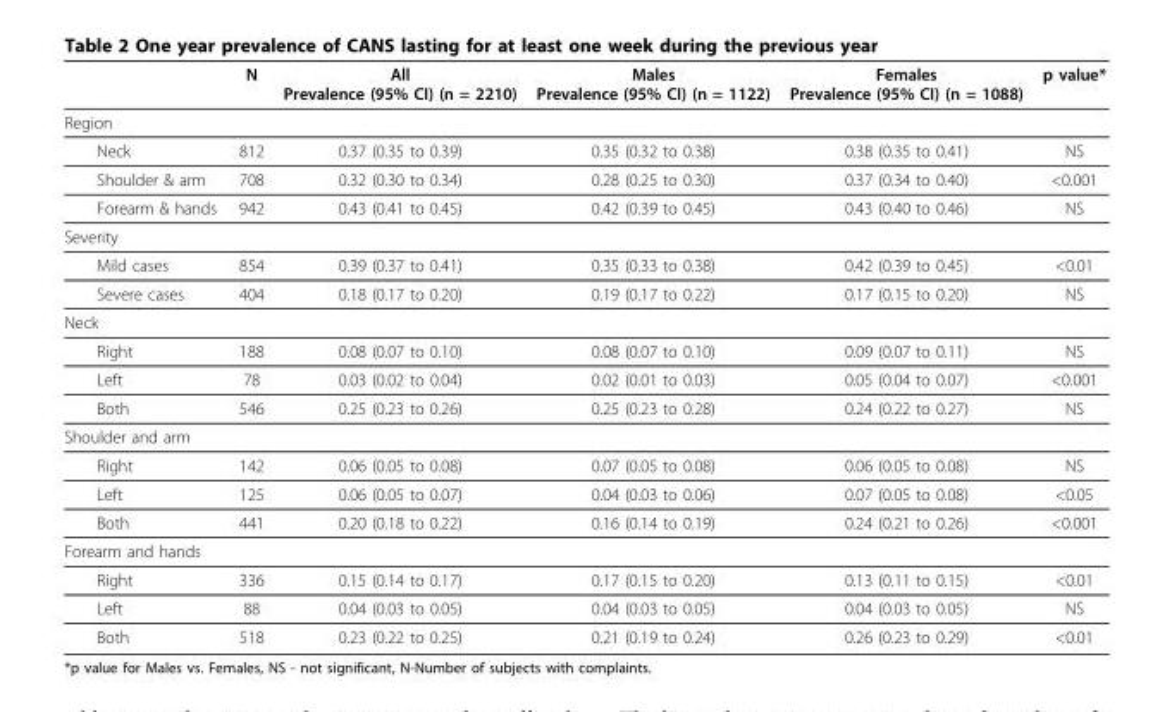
<table><thead><tr><td></td><td>N</td><td>All Prevalence (95% CI) (n = 2210)</td><td>Males Prevalence (95% CI) (n = 1122)</td><td>Females Prevalence (95% CI) (n = 1088)</td><td>p value*</td></tr></thead><tbody><tr><td colspan="6">Region</td></tr><tr><td>Neck</td><td>812</td><td>0.37 (0.35 to 0.39)</td><td>0.35 (0.32 to 0.38)</td><td>0.38 (0.35 to 0.41)</td><td>NS</td></tr><tr><td>Shoulder &amp; arm</td><td>708</td><td>0.32 (0.30 to 0.34)</td><td>0.28 (0.25 to 0.30)</td><td>0.37 (0.34 to 0.40)</td><td>&lt;0.001</td></tr><tr><td>Forearm &amp; hands</td><td>942</td><td>0.43 (0.41 to 0.45)</td><td>0.42 (0.39 to 0.45)</td><td>0.43 (0.40 to 0.46)</td><td>NS</td></tr><tr><td colspan="6">Severity</td></tr><tr><td>Mild cases</td><td>854</td><td>0.39 (0.37 to 0.41)</td><td>0.35 (0.33 to 0.38)</td><td>0.42 (0.39 to 0.45)</td><td>&lt;0.01</td></tr><tr><td>Severe cases</td><td>404</td><td>0.18 (0.17 to 0.20)</td><td>0.19 (0.17 to 0.22)</td><td>0.17 (0.15 to 0.20)</td><td>NS</td></tr><tr><td colspan="6">Neck</td></tr><tr><td>Right</td><td>188</td><td>0.08 (0.07 to 0.10)</td><td>0.08 (0.07 to 0.10)</td><td>0.09 (0.07 to 0.11)</td><td>NS</td></tr><tr><td>Left</td><td>78</td><td>0.03 (0.02 to 0.04)</td><td>0.02 (0.01 to 0.03)</td><td>0.05 (0.04 to 0.07)</td><td>&lt;0.001</td></tr><tr><td>Both</td><td>546</td><td>0.25 (0.23 to 0.26)</td><td>0.25 (0.23 to 0.28)</td><td>0.24 (0.22 to 0.27)</td><td>NS</td></tr><tr><td colspan="6">Shoulder and arm</td></tr><tr><td>Right</td><td>142</td><td>0.06 (0.05 to 0.08)</td><td>0.07 (0.05 to 0.08)</td><td>0.06 (0.05 to 0.08)</td><td>NS</td></tr><tr><td>Left</td><td>125</td><td>0.06 (0.05 to 0.07)</td><td>0.04 (0.03 to 0.06)</td><td>0.07 (0.05 to 0.08)</td><td>&lt;0.05</td></tr><tr><td>Both</td><td>441</td><td>0.20 (0.18 to 0.22)</td><td>0.16 (0.14 to 0.19)</td><td>0.24 (0.21 to 0.26)</td><td>&lt;0.001</td></tr><tr><td colspan="6">Forearm and hands</td></tr><tr><td>Right</td><td>336</td><td>0.15 (0.14 to 0.17)</td><td>0.17 (0.15 to 0.20)</td><td>0.13 (0.11 to 0.15)</td><td>&lt;0.01</td></tr><tr><td>Left</td><td>88</td><td>0.04 (0.03 to 0.05)</td><td>0.04 (0.03 to 0.05)</td><td>0.04 (0.03 to 0.05)</td><td>NS</td></tr><tr><td>Both</td><td>518</td><td>0.23 (0.22 to 0.25)</td><td>0.21 (0.19 to 0.24)</td><td>0.26 (0.23 to 0.29)</td><td>&lt;0.01</td></tr></tbody></table>